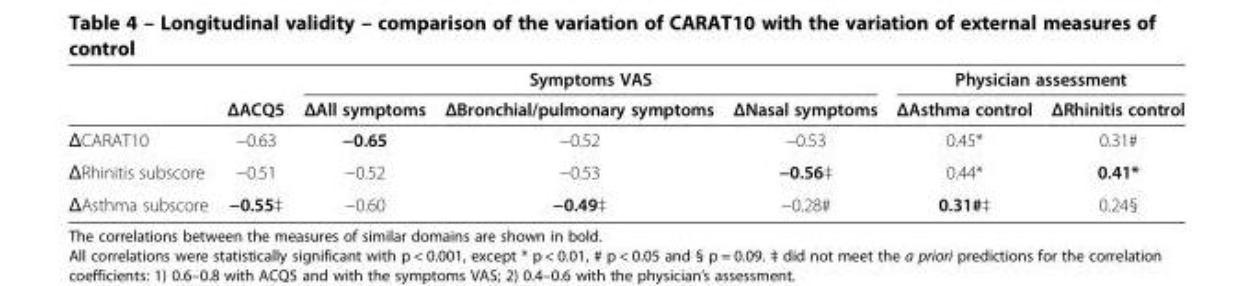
<table><thead><tr><td rowspan="2"></td><td rowspan="2">ΔACQ5</td><td colspan="3">Symptoms VAS</td><td colspan="2">Physician assessment</td></tr><tr><td>ΔAll symptoms</td><td>ΔBronchial/pulmonary symptoms</td><td>ΔNasal symptoms</td><td>ΔAsthma control</td><td>ΔRhinitis control</td></tr></thead><tbody><tr><td>ΔCARAT10</td><td>−0.63</td><td>−0.65</td><td>−0.52</td><td>−0.53</td><td>0.45*</td><td>0.31#</td></tr><tr><td>ΔRhinitis subscore</td><td>−0.51</td><td>−0.52</td><td>−0.53</td><td>−0.56‡</td><td>0.44*</td><td>0.41*</td></tr><tr><td>ΔAsthma subscore</td><td>−0.55‡</td><td>−0.60</td><td>−0.49‡</td><td>−0.28#</td><td>0.31#‡</td><td>0.24§</td></tr></tbody></table>